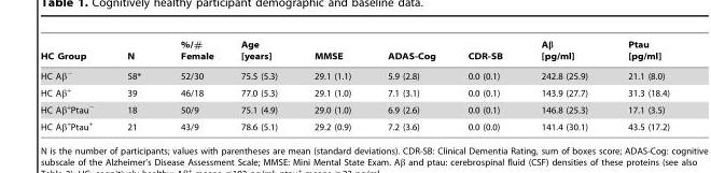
<table><thead><tr><td>HC Group</td><td>N</td><td>%/# Female</td><td>Age [years]</td><td>MMSE</td><td>ADAS-Cog</td><td>CDR-SB</td><td>Aβ [pg/ml]</td><td>Ptau [pg/ml]</td></tr></thead><tbody><tr><td>HC Aβ<sup>−</sup></td><td>58*</td><td>52/30</td><td>75.5 (5.3)</td><td>29.1 (1.1)</td><td>5.9 (2.8)</td><td>0.0 (0.1)</td><td>242.8 (25.9)</td><td>21.1 (8.0)</td></tr><tr><td>HC Aβ<sup>+</sup></td><td>39</td><td>46/18</td><td>77.0 (5.3)</td><td>29.1 (1.0)</td><td>7.1 (3.1)</td><td>0.0 (0.1)</td><td>143.9 (27.7)</td><td>31.3 (18.4)</td></tr><tr><td>HC Aβ<sup>+</sup>Ptau<sup>−</sup></td><td>18</td><td>50/9</td><td>75.1 (4.9)</td><td>29.0 (1.0)</td><td>6.9 (2.6)</td><td>0.0 (0.1)</td><td>146.8 (25.3)</td><td>17.1 (3.5)</td></tr><tr><td>HC Aβ<sup>+</sup>Ptau<sup>+</sup></td><td>21</td><td>43/9</td><td>78.6 (5.1)</td><td>29.2 (0.9)</td><td>7.2 (3.6)</td><td>0.0 (0.0)</td><td>141.4 (30.1)</td><td>43.5 (17.2)</td></tr></tbody></table>